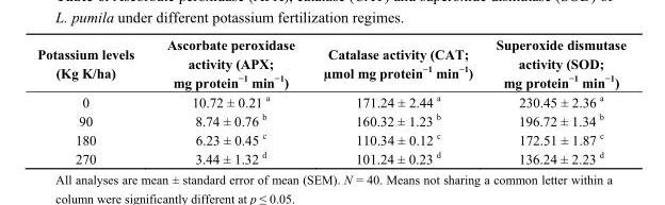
<table><thead><tr><td>Potassium levels (Kg K/ha)</td><td>Ascorbate peroxidase activity (APX; mg protein<sup>−1</sup> min<sup>−1</sup>)</td><td>Catalase activity (CAT; µmol mg protein<sup>−1</sup> min<sup>−1</sup>)</td><td>Superoxide dismutase activity (SOD; mg protein<sup>−1</sup> min<sup>−1</sup>)</td></tr></thead><tbody><tr><td>0</td><td>10.72 ± 0.21 <sup>a</sup></td><td>171.24 ± 2.44 <sup>a</sup></td><td>230.45 ± 2.36 <sup>a</sup></td></tr><tr><td>90</td><td>8.74 ± 0.76 <sup>b</sup></td><td>160.32 ± 1.23 <sup>b</sup></td><td>196.72 ± 1.34 <sup>b</sup></td></tr><tr><td>180</td><td>6.23 ± 0.45 <sup>c</sup></td><td>110.34 ± 0.12 <sup>c</sup></td><td>172.51 ± 1.87 <sup>c</sup></td></tr><tr><td>270</td><td>3.44 ± 1.32 <sup>d</sup></td><td>101.24 ± 0.23 <sup>d</sup></td><td>136.24 ± 2.23 <sup>d</sup></td></tr></tbody></table>